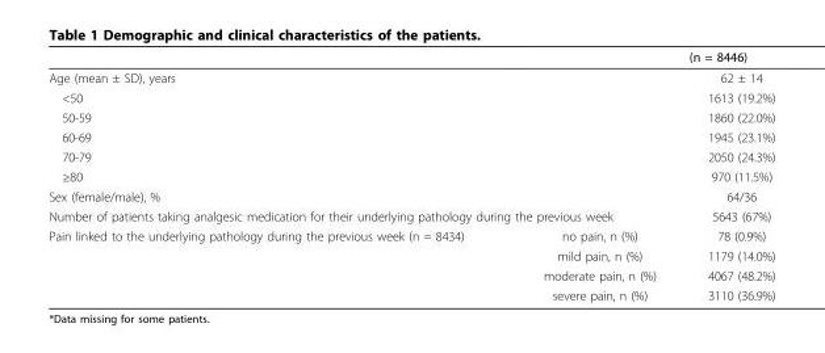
<table><thead><tr><td></td><td></td><td>(n = 8446)</td></tr></thead><tbody><tr><td>Age (mean ± SD), years</td><td></td><td>62 ± 14</td></tr><tr><td>&lt;50</td><td></td><td>1613 (19.2%)</td></tr><tr><td>50-59</td><td></td><td>1860 (22.0%)</td></tr><tr><td>60-69</td><td></td><td>1945 (23.1%)</td></tr><tr><td>70-79</td><td></td><td>2050 (24.3%)</td></tr><tr><td>≥80</td><td></td><td>970 (11.5%)</td></tr><tr><td>Sex (female/male), %</td><td></td><td>64/36</td></tr><tr><td colspan="2">Number of patients taking analgesic medication for their underlying pathology during the previous week</td><td>5643 (67%)</td></tr><tr><td rowspan="4">Pain linked to the underlying pathology during the previous week (n = 8434)</td><td>no pain, n (%)</td><td>78 (0.9%)</td></tr><tr><td>mild pain, n (%)</td><td>1179 (14.0%)</td></tr><tr><td>moderate pain, n (%)</td><td>4067 (48.2%)</td></tr><tr><td>severe pain, n (%)</td><td>3110 (36.9%)</td></tr></tbody></table>